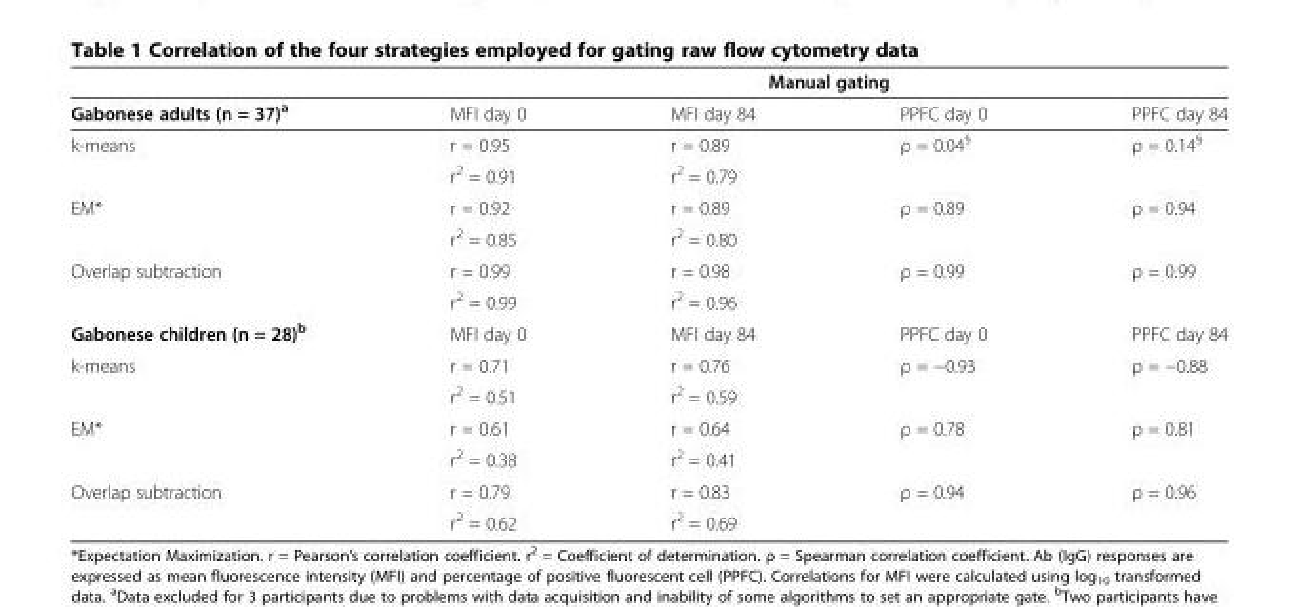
<table><thead><tr><td colspan="5">Manual gating</td></tr><tr><td>Gabonese adults (n = 37)<sup>a</sup></td><td>MFI day 0</td><td>MFI day 84</td><td>PPFC day 0</td><td>PPFC day 84</td></tr></thead><tbody><tr><td rowspan="2">k-means</td><td>r = 0.95</td><td>r = 0.89</td><td>ρ = 0.04<sup>§</sup></td><td>ρ = 0.14<sup>§</sup></td></tr><tr><td>r<sup>2</sup> = 0.91</td><td>r<sup>2</sup> = 0.79</td><td></td><td></td></tr><tr><td rowspan="2">EM*</td><td>r = 0.92</td><td>r = 0.89</td><td>ρ = 0.89</td><td>ρ = 0.94</td></tr><tr><td>r<sup>2</sup> = 0.85</td><td>r<sup>2</sup> = 0.80</td><td></td><td></td></tr><tr><td rowspan="2">Overlap subtraction</td><td>r = 0.99</td><td>r = 0.98</td><td>ρ = 0.99</td><td>ρ = 0.99</td></tr><tr><td>r<sup>2</sup> = 0.99</td><td>r<sup>2</sup> = 0.96</td><td></td><td></td></tr><tr><td>Gabonese children (n = 28)<sup>b</sup></td><td>MFI day 0</td><td>MFI day 84</td><td>PPFC day 0</td><td>PPFC day 84</td></tr><tr><td rowspan="2">k-means</td><td>r = 0.71</td><td>r = 0.76</td><td>ρ = −0.93</td><td>ρ = −0.88</td></tr><tr><td>r<sup>2</sup> = 0.51</td><td>r<sup>2</sup> = 0.59</td><td></td><td></td></tr><tr><td rowspan="2">EM*</td><td>r = 0.61</td><td>r = 0.64</td><td>ρ = 0.78</td><td>ρ = 0.81</td></tr><tr><td>r<sup>2</sup> = 0.38</td><td>r<sup>2</sup> = 0.41</td><td></td><td></td></tr><tr><td rowspan="2">Overlap subtraction</td><td>r = 0.79</td><td>r = 0.83</td><td>ρ = 0.94</td><td>ρ = 0.96</td></tr><tr><td>r<sup>2</sup> = 0.62</td><td>r<sup>2</sup> = 0.69</td><td></td><td></td></tr></tbody></table>